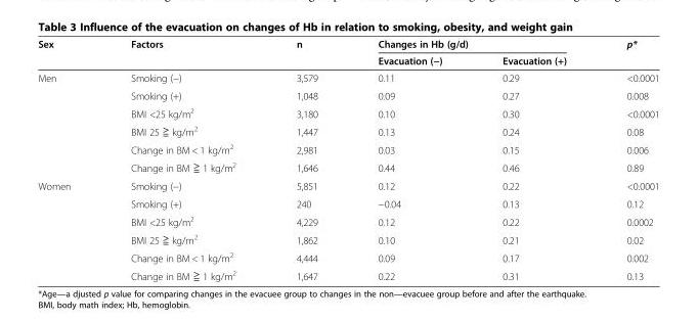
<table><thead><tr><td rowspan="2">Sex</td><td rowspan="2">Factors</td><td rowspan="2">n</td><td colspan="2">Changes in Hb (g/d)</td><td rowspan="2">p*</td></tr><tr><td>Evacuation (−)</td><td>Evacuation (+)</td></tr></thead><tbody><tr><td rowspan="6">Men</td><td>Smoking (−)</td><td>3,579</td><td>0.11</td><td>0.29</td><td>&lt;0.0001</td></tr><tr><td>Smoking (+)</td><td>1,048</td><td>0.09</td><td>0.27</td><td>0.008</td></tr><tr><td>BMI &lt;25 kg/m<sup>2</sup></td><td>3,180</td><td>0.10</td><td>0.30</td><td>&lt;0.0001</td></tr><tr><td>BMI 25 ≧ kg/m<sup>2</sup></td><td>1,447</td><td>0.13</td><td>0.24</td><td>0.08</td></tr><tr><td>Change in BM &lt; 1 kg/m<sup>2</sup></td><td>2,981</td><td>0.03</td><td>0.15</td><td>0.006</td></tr><tr><td>Change in BM ≧ 1 kg/m<sup>2</sup></td><td>1,646</td><td>0.44</td><td>0.46</td><td>0.89</td></tr><tr><td rowspan="6">Women</td><td>Smoking (−)</td><td>5,851</td><td>0.12</td><td>0.22</td><td>&lt;0.0001</td></tr><tr><td>Smoking (+)</td><td>240</td><td>−0.04</td><td>0.13</td><td>0.12</td></tr><tr><td>BMI &lt;25 kg/m<sup>2</sup></td><td>4,229</td><td>0.12</td><td>0.22</td><td>0.0002</td></tr><tr><td>BMI 25 ≧ kg/m<sup>2</sup></td><td>1,862</td><td>0.10</td><td>0.21</td><td>0.02</td></tr><tr><td>Change in BM &lt; 1 kg/m<sup>2</sup></td><td>4,444</td><td>0.09</td><td>0.17</td><td>0.002</td></tr><tr><td>Change in BM ≧ 1 kg/m<sup>2</sup></td><td>1,647</td><td>0.22</td><td>0.31</td><td>0.13</td></tr></tbody></table>